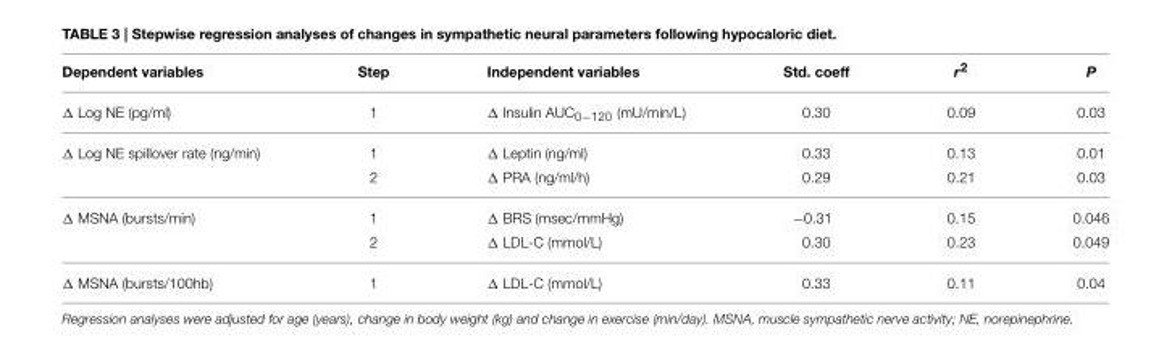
<table><thead><tr><td>Dependent variables</td><td>Step</td><td>Independent variables</td><td>Std. coeff</td><td>r<sup>2</sup></td><td>P</td></tr></thead><tbody><tr><td>Δ Log NE (pg/ml)</td><td>1</td><td>Δ Insulin AUC<sub>0−120</sub> (mU/min/L)</td><td>0.30</td><td>0.09</td><td>0.03</td></tr><tr><td rowspan="2">Δ Log NE spillover rate (ng/min)</td><td>1</td><td>Δ Leptin (ng/ml)</td><td>0.33</td><td>0.13</td><td>0.01</td></tr><tr><td>2</td><td>Δ PRA (ng/ml/h)</td><td>0.29</td><td>0.21</td><td>0.03</td></tr><tr><td rowspan="2">Δ MSNA (bursts/min)</td><td>1</td><td>Δ BRS (msec/mmHg)</td><td>−0.31</td><td>0.15</td><td>0.046</td></tr><tr><td>2</td><td>Δ LDL-C (mmol/L)</td><td>0.30</td><td>0.23</td><td>0.049</td></tr><tr><td>Δ MSNA (bursts/100hb)</td><td>1</td><td>Δ LDL-C (mmol/L)</td><td>0.33</td><td>0.11</td><td>0.04</td></tr></tbody></table>